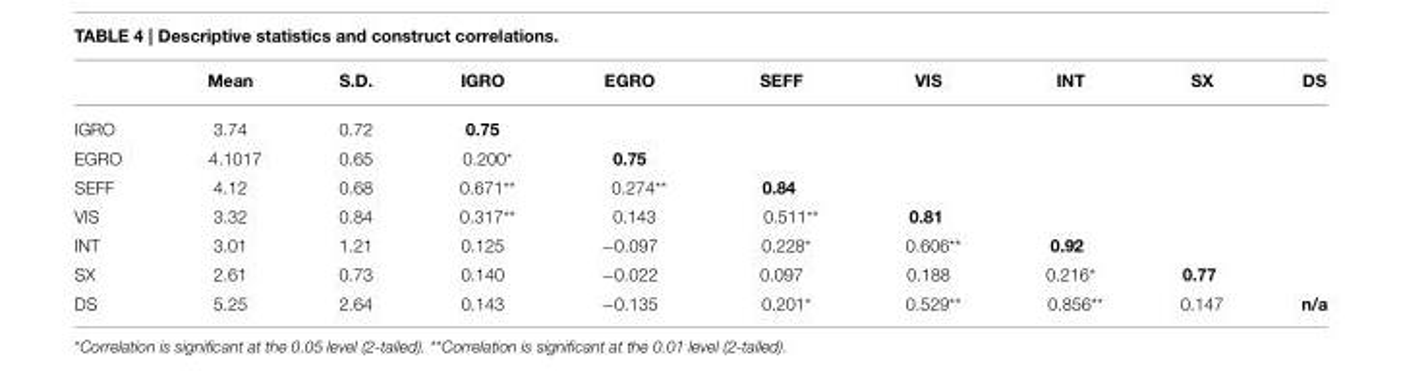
<table><thead><tr><td></td><td>Mean</td><td>S.D.</td><td>IGRO</td><td>EGRO</td><td>SEFF</td><td>VIS</td><td>INT</td><td>SX</td><td>DS</td></tr></thead><tbody><tr><td>IGRO</td><td>3.74</td><td>0.72</td><td>0.75</td><td></td><td></td><td></td><td></td><td></td><td></td></tr><tr><td>EGRO</td><td>4.1017</td><td>0.65</td><td>0.200*</td><td>0.75</td><td></td><td></td><td></td><td></td><td></td></tr><tr><td>SEFF</td><td>4.12</td><td>0.68</td><td>0.671**</td><td>0.274**</td><td>0.84</td><td></td><td></td><td></td><td></td></tr><tr><td>VIS</td><td>3.32</td><td>0.84</td><td>0.317**</td><td>0.143</td><td>0.511**</td><td>0.81</td><td></td><td></td><td></td></tr><tr><td>INT</td><td>3.01</td><td>1.21</td><td>0.125</td><td>−0.097</td><td>0.228*</td><td>0.606**</td><td>0.92</td><td></td><td></td></tr><tr><td>SX</td><td>2.61</td><td>0.73</td><td>0.140</td><td>−0.022</td><td>0.097</td><td>0.188</td><td>0.216*</td><td>0.77</td><td></td></tr><tr><td>DS</td><td>5.25</td><td>2.64</td><td>0.143</td><td>−0.135</td><td>0.201*</td><td>0.529**</td><td>0.856**</td><td>0.147</td><td>n/a</td></tr></tbody></table>